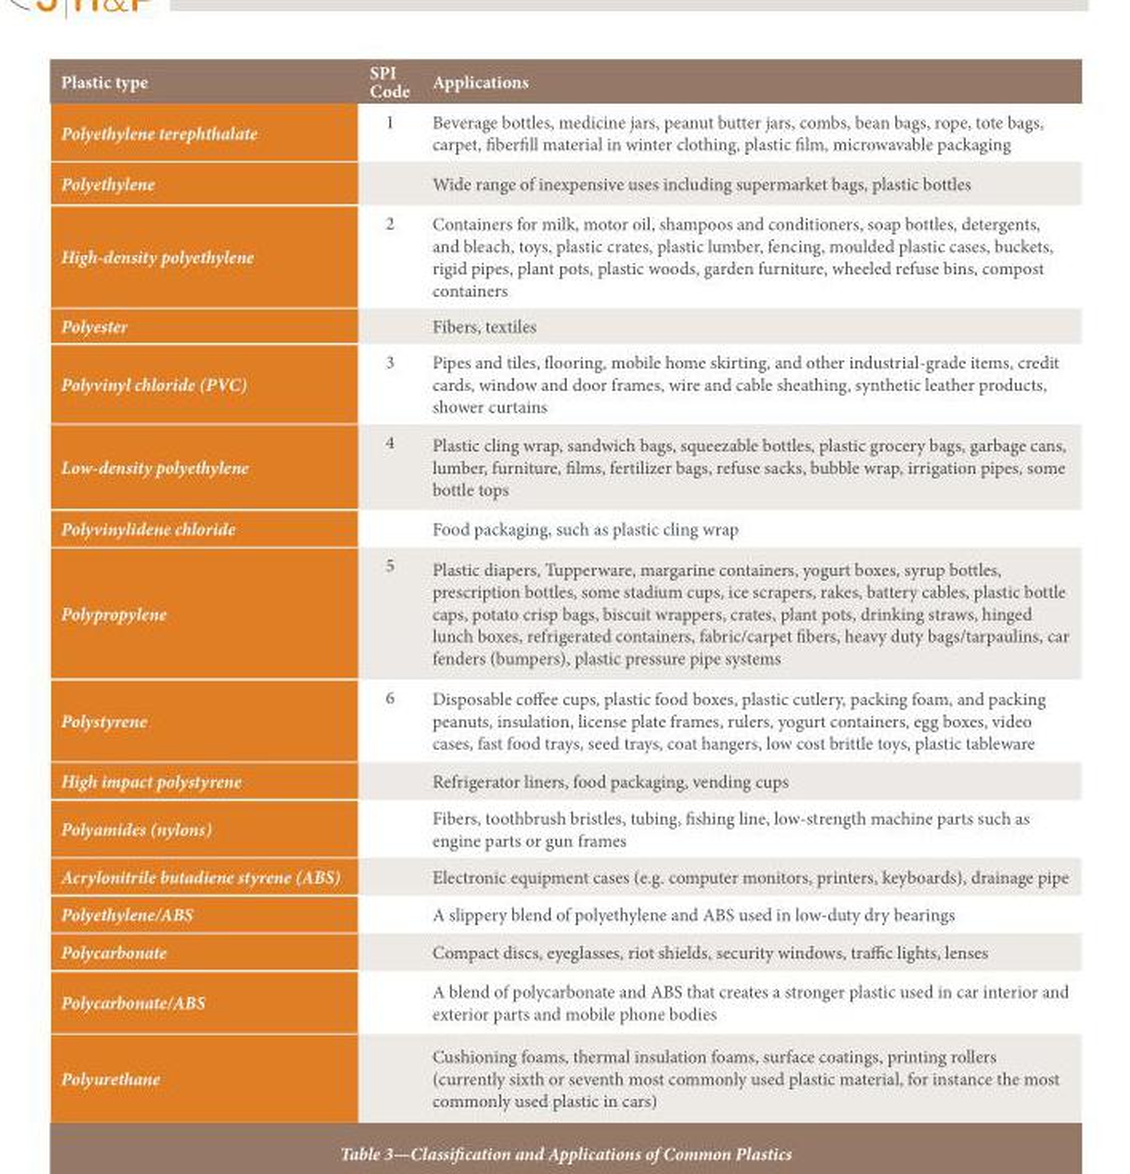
<table><thead><tr><td>Plastic type</td><td>SPI Code</td><td>Applications</td></tr></thead><tbody><tr><td>Polyethylene terephthalate</td><td>1</td><td>Beverage bottles, medicine jars, peanut butter jars, combs, bean bags, rope, tote bags, carpet, fiberfill material in winter clothing, plastic film, microwavable packaging</td></tr><tr><td>Polyethylene</td><td></td><td>Wide range of inexpensive uses including supermarket bags, plastic bottles</td></tr><tr><td>High-density polyethylene</td><td>2</td><td>Containers for milk, motor oil, shampoos and conditioners, soap bottles, detergents, and bleach, toys, plastic crates, plastic lumber, fencing, moulded plastic cases, buckets, rigid pipes, plant pots, plastic woods, garden furniture, wheeled refuse bins, compost containers</td></tr><tr><td>Polyester</td><td></td><td>Fibers, textiles</td></tr><tr><td>Polyvinyl chloride (PVC)</td><td>3</td><td>Pipes and tiles, flooring, mobile home skirting, and other industrial-grade items, credit cards, window and door frames, wire and cable sheathing, synthetic leather products, shower curtains</td></tr><tr><td>Low-density polyethylene</td><td>4</td><td>Plastic cling wrap, sandwich bags, squeezable bottles, plastic grocery bags, garbage cans, lumber, furniture, films, fertilizer bags, refuse sacks, bubble wrap, irrigation pipes, some bottle tops</td></tr><tr><td>Polyvinylidene chloride</td><td></td><td>Food packaging, such as plastic cling wrap</td></tr><tr><td>Polypropylene</td><td>5</td><td>Plastic diapers, Tupperware, margarine containers, yogurt boxes, syrup bottles, prescription bottles, some stadium cups, ice scrapers, rakes, battery cables, plastic bottle caps, potato crisp bags, biscuit wrappers, crates, plant pots, drinking straws, hinged lunch boxes, refrigerated containers, fabric/carpet fibers, heavy duty bags/tarpaulins, car fenders (bumpers), plastic pressure pipe systems</td></tr><tr><td>Polystyrene</td><td>6</td><td>Disposable coffee cups, plastic food boxes, plastic cutlery, packing foam, and packing peanuts, insulation, license plate frames, rulers, yogurt containers, egg boxes, video cases, fast food trays, seed trays, coat hangers, low cost brittle toys, plastic tableware</td></tr><tr><td>High impact polystyrene</td><td></td><td>Refrigerator liners, food packaging, vending cups</td></tr><tr><td>Polyamides (nylons)</td><td></td><td>Fibers, toothbrush bristles, tubing, fishing line, low-strength machine parts such as engine parts or gun frames</td></tr><tr><td>Acrylonitrile butadiene styrene (ABS)</td><td></td><td>Electronic equipment cases (e.g. computer monitors, printers, keyboards), drainage pipe</td></tr><tr><td>Polyethylene/ABS</td><td></td><td>A slippery blend of polyethylene and ABS used in low-duty dry bearings</td></tr><tr><td>Polycarbonate</td><td></td><td>Compact discs, eyeglasses, riot shields, security windows, traffic lights, lenses</td></tr><tr><td>Polycarbonate/ABS</td><td></td><td>A blend of polycarbonate and ABS that creates a stronger plastic used in car interior and exterior parts and mobile phone bodies</td></tr><tr><td>Polyurethane</td><td></td><td>Cushioning foams, thermal insulation foams, surface coatings, printing rollers (currently sixth or seventh most commonly used plastic material, for instance the most commonly used plastic in cars)</td></tr></tbody></table>